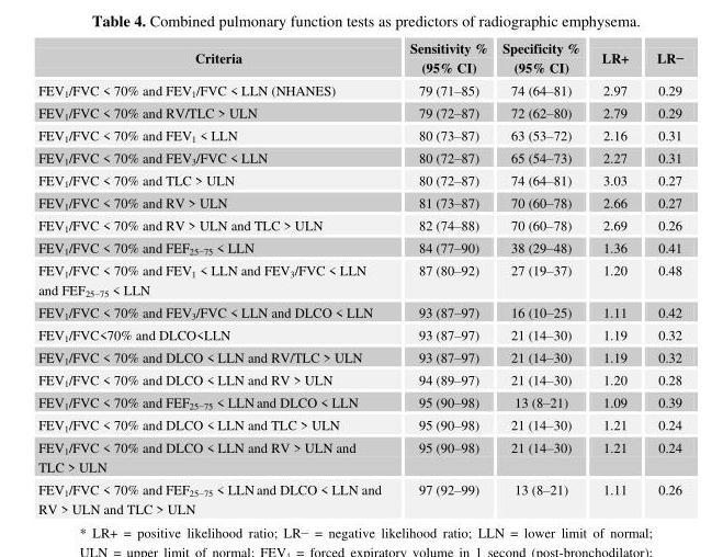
<table><thead><tr><td>Criteria</td><td>Sensitivity % (95% CI)</td><td>Specificity % (95% CI)</td><td>LR+</td><td>LR−</td></tr></thead><tbody><tr><td>FEV<sub>1</sub>/FVC &lt; 70% and FEV<sub>1</sub>/FVC &lt; LLN (NHANES)</td><td>79 (71–85)</td><td>74 (64–81)</td><td>2.97</td><td>0.29</td></tr><tr><td>FEV<sub>1</sub>/FVC &lt; 70% and RV/TLC &gt; ULN</td><td>79 (72–87)</td><td>72 (62–80)</td><td>2.79</td><td>0.29</td></tr><tr><td>FEV<sub>1</sub>/FVC &lt; 70% and FEV<sub>1</sub> &lt; LLN</td><td>80 (73–87)</td><td>63 (53–72)</td><td>2.16</td><td>0.31</td></tr><tr><td>FEV<sub>1</sub>/FVC &lt; 70% and FEV<sub>3</sub>/FVC &lt; LLN</td><td>80 (72–87)</td><td>65 (54–73)</td><td>2.27</td><td>0.31</td></tr><tr><td>FEV<sub>1</sub>/FVC &lt; 70% and TLC &gt; ULN</td><td>80 (72–87)</td><td>74 (64–81)</td><td>3.03</td><td>0.27</td></tr><tr><td>FEV<sub>1</sub>/FVC &lt; 70% and RV &gt; ULN</td><td>81 (73–87)</td><td>70 (60–78)</td><td>2.66</td><td>0.27</td></tr><tr><td>FEV<sub>1</sub>/FVC &lt; 70% and RV &gt; ULN and TLC &gt; ULN</td><td>82 (74–88)</td><td>70 (60–78)</td><td>2.69</td><td>0.26</td></tr><tr><td>FEV<sub>1</sub>/FVC &lt; 70% and FEF<sub>25−75</sub> &lt; LLN</td><td>84 (77–90)</td><td>38 (29–48)</td><td>1.36</td><td>0.41</td></tr><tr><td>FEV<sub>1</sub>/FVC &lt; 70% and FEV<sub>1</sub> &lt; LLN and FEV<sub>3</sub>/FVC &lt; LLN and FEF<sub>25−75</sub> &lt; LLN</td><td>87 (80–92)</td><td>27 (19–37)</td><td>1.20</td><td>0.48</td></tr><tr><td>FEV<sub>1</sub>/FVC &lt; 70% and FEV<sub>3</sub>/FVC &lt; LLN and DLCO &lt; LLN</td><td>93 (87–97)</td><td>16 (10–25)</td><td>1.11</td><td>0.42</td></tr><tr><td>FEV<sub>1</sub>/FVC&lt;70% and DLCO&lt;LLN</td><td>93 (87–97)</td><td>21 (14–30)</td><td>1.19</td><td>0.32</td></tr><tr><td>FEV<sub>1</sub>/FVC &lt; 70% and DLCO &lt; LLN and RV/TLC &gt; ULN</td><td>93 (87–97)</td><td>21 (14–30)</td><td>1.19</td><td>0.32</td></tr><tr><td>FEV<sub>1</sub>/FVC &lt; 70% and DLCO &lt; LLN and RV &gt; ULN</td><td>94 (89–97)</td><td>21 (14–30)</td><td>1.20</td><td>0.28</td></tr><tr><td>FEV<sub>1</sub>/FVC &lt; 70% and FEF<sub>25−75</sub> &lt; LLN and DLCO &lt; LLN</td><td>95 (90–98)</td><td>13 (8–21)</td><td>1.09</td><td>0.39</td></tr><tr><td>FEV<sub>1</sub>/FVC &lt; 70% and DLCO &lt; LLN and TLC &gt; ULN</td><td>95 (90–98)</td><td>21 (14–30)</td><td>1.21</td><td>0.24</td></tr><tr><td>FEV<sub>1</sub>/FVC &lt; 70% and DLCO &lt; LLN and RV &gt; ULN and TLC &gt; ULN</td><td>95 (90–98)</td><td>21 (14–30)</td><td>1.21</td><td>0.24</td></tr><tr><td>FEV<sub>1</sub>/FVC &lt; 70% and FEF<sub>25−75</sub> &lt; LLN and DLCO &lt; LLN and RV &gt; ULN and TLC &gt; ULN</td><td>97 (92–99)</td><td>13 (8–21)</td><td>1.11</td><td>0.26</td></tr></tbody></table>